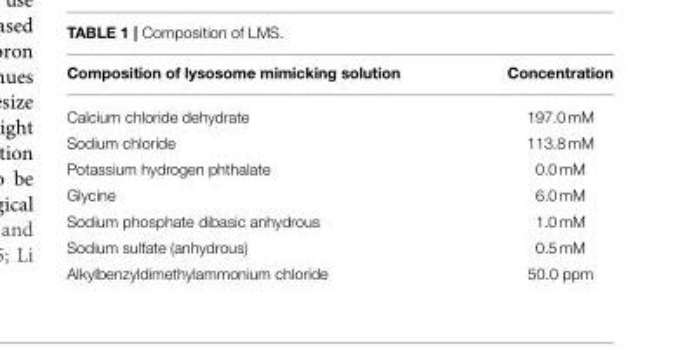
<table><thead><tr><td>Composition of lysosome mimicking solution</td><td>Concentration</td></tr></thead><tbody><tr><td>Calcium chloride dehydrate</td><td>197.0 mM</td></tr><tr><td>Sodium chloride</td><td>113.8 mM</td></tr><tr><td>Potassium hydrogen phthalate</td><td>0.0 mM</td></tr><tr><td>Glycine</td><td>6.0 mM</td></tr><tr><td>Sodium phosphate dibasic anhydrous</td><td>1.0 mM</td></tr><tr><td>Sodium sulfate (anhydrous)</td><td>0.5 mM</td></tr><tr><td>Alkylbenzyldimethylammonium chloride</td><td>50.0 ppm</td></tr></tbody></table>